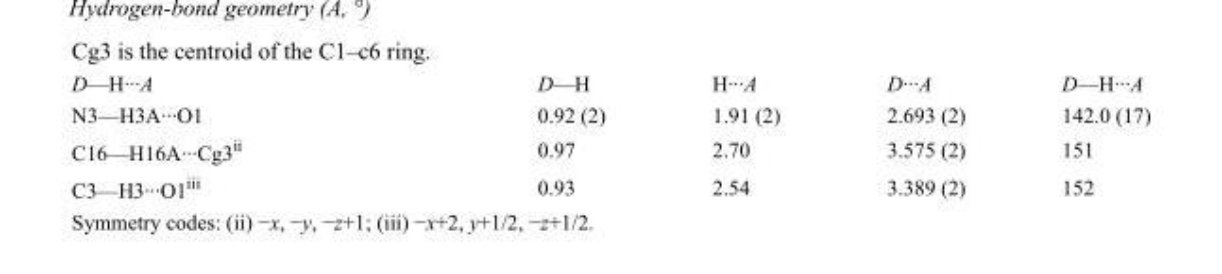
<table><tbody><tr><td>D—H···A</td><td>D—H</td><td>H···A</td><td>D···A</td><td>D—H···A</td></tr><tr><td>N3—H3A···O1</td><td>0.92 (2)</td><td>1.91 (2)</td><td>2.693 (2)</td><td>142.0 (17)</td></tr><tr><td>C16—H16A···Cg3<sup>ii</sup></td><td>0.97</td><td>2.70</td><td>3.575 (2)</td><td>151</td></tr><tr><td>C3—H3···O1<sup>iii</sup></td><td>0.93</td><td>2.54</td><td>3.389 (2)</td><td>152</td></tr></tbody></table>